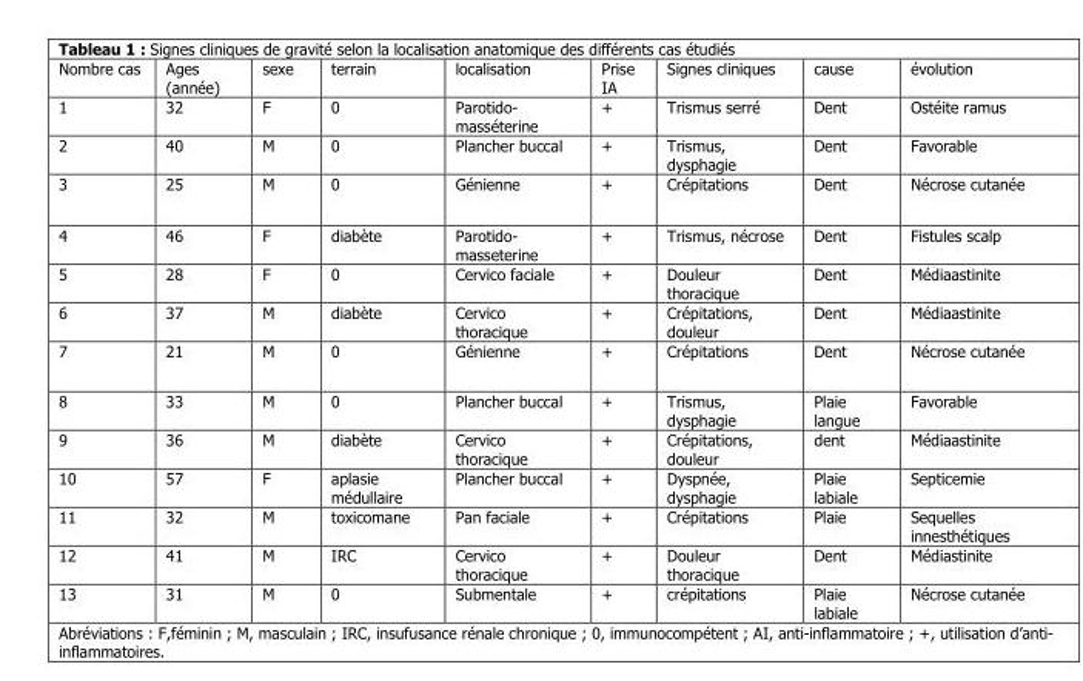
<table><thead><tr><td>Nombre cas</td><td>Ages (année)</td><td>sexe</td><td>terrain</td><td>localisation</td><td>Prise IA</td><td>Signes cliniques</td><td>cause</td><td>évolution</td></tr></thead><tbody><tr><td>1</td><td>32</td><td>F</td><td>0</td><td>Parotido- masséterine</td><td>+</td><td>Trismus serré</td><td>Dent</td><td>Ostéite ramus</td></tr><tr><td>2</td><td>40</td><td>M</td><td>0</td><td>Plancher buccal</td><td>+</td><td>Trismus, dysphagie</td><td>Dent</td><td>Favorable</td></tr><tr><td>3</td><td>25</td><td>M</td><td>0</td><td>Génienne</td><td>+</td><td>Crépitations</td><td>Dent</td><td>Nécrose cutanée</td></tr><tr><td>4</td><td>46</td><td>F</td><td>diabète</td><td>Parotido- masseterine</td><td>+</td><td>Trismus, nécrose</td><td>Dent</td><td>Fistules scalp</td></tr><tr><td>5</td><td>28</td><td>F</td><td>0</td><td>Cervico faciale</td><td>+</td><td>Douleur thoracique</td><td>Dent</td><td>Médiaastinite</td></tr><tr><td>6</td><td>37</td><td>M</td><td>diabète</td><td>Cervico thoracique</td><td>+</td><td>Crépitations, douleur</td><td>Dent</td><td>Médiaastinite</td></tr><tr><td>7</td><td>21</td><td>M</td><td>0</td><td>Génienne</td><td>+</td><td>Crépitations</td><td>Dent</td><td>Nécrose cutanée</td></tr><tr><td>8</td><td>33</td><td>M</td><td>0</td><td>Plancher buccal</td><td>+</td><td>Trismus, dysphagie</td><td>Plaie langue</td><td>Favorable</td></tr><tr><td>9</td><td>36</td><td>M</td><td>diabète</td><td>Cervico thoracique</td><td>+</td><td>Crépitations, douleur</td><td>dent</td><td>Médiaastinite</td></tr><tr><td>10</td><td>57</td><td>F</td><td>aplasie médullaire</td><td>Plancher buccal</td><td>+</td><td>Dyspnée, dysphagie</td><td>Plaie labiale</td><td>Septicemie</td></tr><tr><td>11</td><td>32</td><td>M</td><td>toxicomane</td><td>Pan faciale</td><td>+</td><td>Crépitations</td><td>Plaie</td><td>Sequelles innesthétiques</td></tr><tr><td>12</td><td>41</td><td>M</td><td>IRC</td><td>Cervico thoracique</td><td>+</td><td>Douleur thoracique</td><td>Dent</td><td>Médiastinite</td></tr><tr><td>13</td><td>31</td><td>M</td><td>0</td><td>Submentale</td><td>+</td><td>crépitations</td><td>Plaie labiale</td><td>Nécrose cutanée</td></tr></tbody></table>